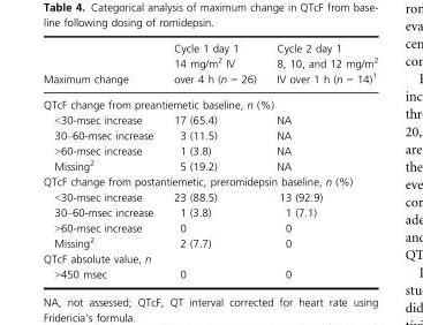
<table><thead><tr><td>Maximum change</td><td>Cycle 1 day 1 14 mg/m<sup>2</sup> IV over 4 h (n = 26)</td><td>Cycle 2 day 1 8, 10, and 12 mg/m<sup>2</sup> IV over 1 h (n = 14)<sup>1</sup></td></tr></thead><tbody><tr><td colspan="3">QTcF change from preantiemetic baseline, n (%)</td></tr><tr><td>&lt;30-msec increase</td><td>17 (65.4)</td><td>NA</td></tr><tr><td>30–60-msec increase</td><td>3 (11.5)</td><td>NA</td></tr><tr><td>&gt;60-msec increase</td><td>1 (3.8)</td><td>NA</td></tr><tr><td>Missing<sup>2</sup></td><td>5 (19.2)</td><td>NA</td></tr><tr><td colspan="3">QTcF change from postantiemetic, preromidepsin baseline, n (%)</td></tr><tr><td>&lt;30-msec increase</td><td>23 (88.5)</td><td>13 (92.9)</td></tr><tr><td>30–60-msec increase</td><td>1 (3.8)</td><td>1 (7.1)</td></tr><tr><td>&gt;60-msec increase</td><td>0</td><td>0</td></tr><tr><td>Missing<sup>2</sup></td><td>2 (7.7)</td><td>0</td></tr><tr><td colspan="3">QTcF absolute value, n</td></tr><tr><td>&gt;450 msec</td><td>0</td><td>0</td></tr></tbody></table>